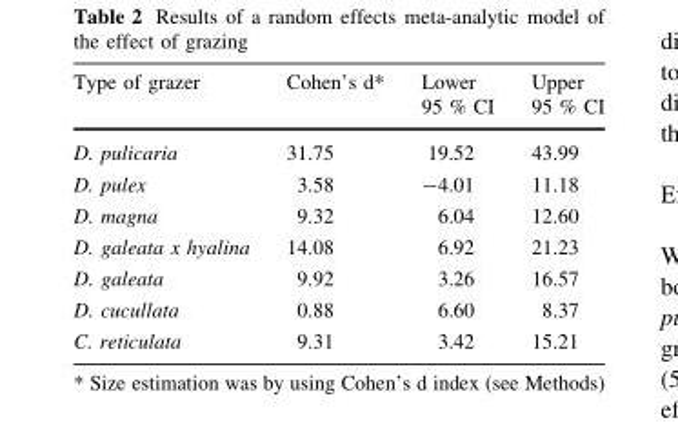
<table><thead><tr><td>Type of grazer</td><td>Cohen’s d*</td><td>Lower 95 % CI</td><td>Upper 95 % CI</td></tr></thead><tbody><tr><td>D. pulicaria</td><td>31.75</td><td>19.52</td><td>43.99</td></tr><tr><td>D. pulex</td><td>3.58</td><td>-4.01</td><td>11.18</td></tr><tr><td>D. magna</td><td>9.32</td><td>6.04</td><td>12.60</td></tr><tr><td>D. galeata x hyalina</td><td>14.08</td><td>6.92</td><td>21.23</td></tr><tr><td>D. galeata</td><td>9.92</td><td>3.26</td><td>16.57</td></tr><tr><td>D. cucullata</td><td>0.88</td><td>6.60</td><td>8.37</td></tr><tr><td>C. reticulata</td><td>9.31</td><td>3.42</td><td>15.21</td></tr></tbody></table>